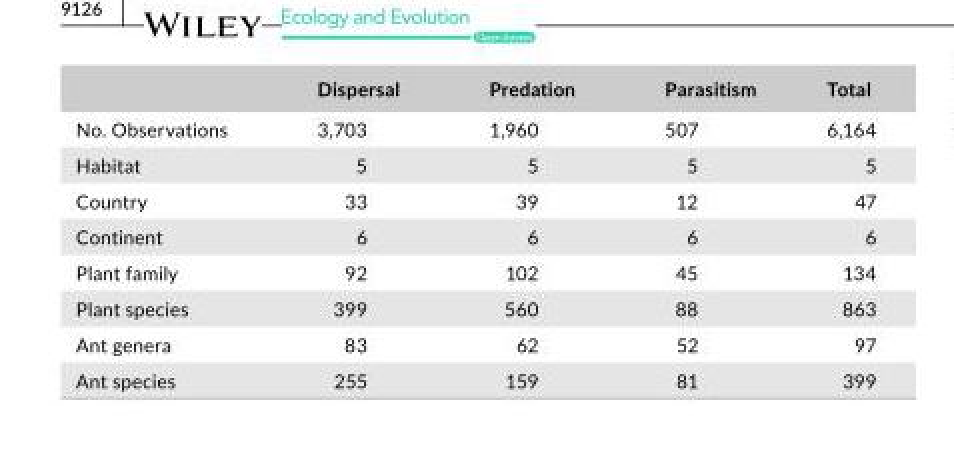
<table><thead><tr><td></td><td>Dispersal</td><td>Predation</td><td>Parasitism</td><td>Total</td></tr></thead><tbody><tr><td>No. Observations</td><td>3,703</td><td>1,960</td><td>507</td><td>6,164</td></tr><tr><td>Habitat</td><td>5</td><td>5</td><td>5</td><td>5</td></tr><tr><td>Country</td><td>33</td><td>39</td><td>12</td><td>47</td></tr><tr><td>Continent</td><td>6</td><td>6</td><td>6</td><td>6</td></tr><tr><td>Plant family</td><td>92</td><td>102</td><td>45</td><td>134</td></tr><tr><td>Plant species</td><td>399</td><td>560</td><td>88</td><td>863</td></tr><tr><td>Ant genera</td><td>83</td><td>62</td><td>52</td><td>97</td></tr><tr><td>Ant species</td><td>255</td><td>159</td><td>81</td><td>399</td></tr></tbody></table>